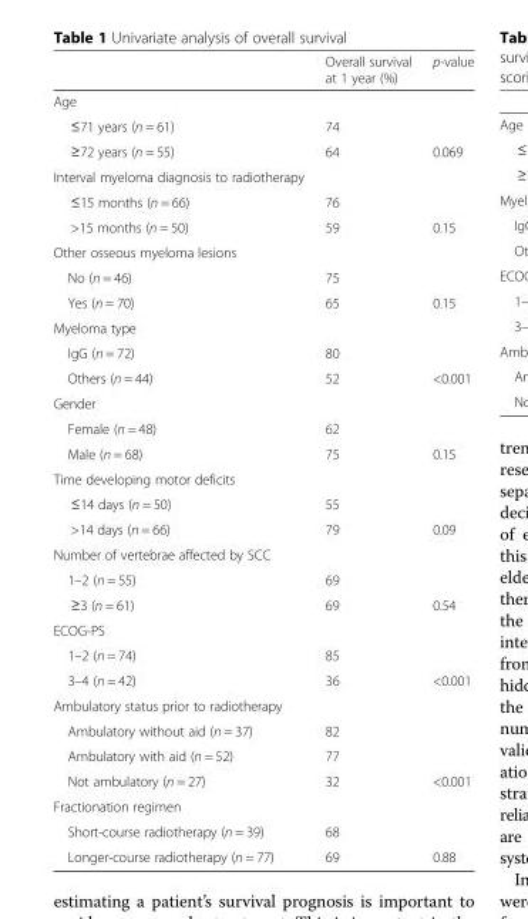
<table><thead><tr><td></td><td>Overall survival at 1 year (%)</td><td>p-value</td></tr></thead><tbody><tr><td colspan="3">Age</td></tr><tr><td>≤71 years (n = 61)</td><td>74</td><td></td></tr><tr><td>≥72 years (n = 55)</td><td>64</td><td>0.069</td></tr><tr><td colspan="3">Interval myeloma diagnosis to radiotherapy</td></tr><tr><td>≤15 months (n = 66)</td><td>76</td><td></td></tr><tr><td>&gt;15 months (n = 50)</td><td>59</td><td>0.15</td></tr><tr><td colspan="3">Other osseous myeloma lesions</td></tr><tr><td>No (n = 46)</td><td>75</td><td></td></tr><tr><td>Yes (n = 70)</td><td>65</td><td>0.15</td></tr><tr><td colspan="3">Myeloma type</td></tr><tr><td>IgG (n = 72)</td><td>80</td><td></td></tr><tr><td>Others (n = 44)</td><td>52</td><td>&lt;0.001</td></tr><tr><td colspan="3">Gender</td></tr><tr><td>Female (n = 48)</td><td>62</td><td></td></tr><tr><td>Male (n = 68)</td><td>75</td><td>0.15</td></tr><tr><td colspan="3">Time developing motor deficits</td></tr><tr><td>≤14 days (n = 50)</td><td>55</td><td></td></tr><tr><td>&gt;14 days (n = 66)</td><td>79</td><td>0.09</td></tr><tr><td colspan="3">Number of vertebrae affected by SCC</td></tr><tr><td>1–2 (n = 55)</td><td>69</td><td></td></tr><tr><td>≥3 (n = 61)</td><td>69</td><td>0.54</td></tr><tr><td colspan="3">ECOG-PS</td></tr><tr><td>1–2 (n = 74)</td><td>85</td><td></td></tr><tr><td>3–4 (n = 42)</td><td>36</td><td>&lt;0.001</td></tr><tr><td colspan="3">Ambulatory status prior to radiotherapy</td></tr><tr><td>Ambulatory without aid (n = 37)</td><td>82</td><td></td></tr><tr><td>Ambulatory with aid (n = 52)</td><td>77</td><td></td></tr><tr><td>Not ambulatory (n = 27)</td><td>32</td><td>&lt;0.001</td></tr><tr><td colspan="3">Fractionation regimen</td></tr><tr><td>Short-course radiotherapy (n = 39)</td><td>68</td><td></td></tr><tr><td>Longer-course radiotherapy (n = 77)</td><td>69</td><td>0.88</td></tr></tbody></table>